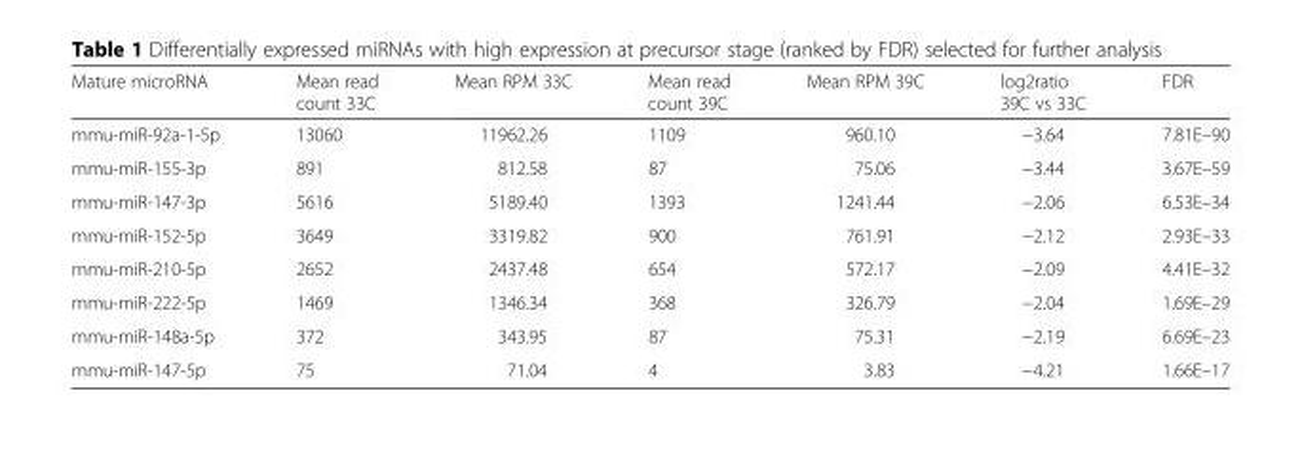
<table><thead><tr><td>Mature microRNA</td><td>Mean read count 33C</td><td>Mean RPM 33C</td><td>Mean read count 39C</td><td>Mean RPM 39C</td><td>log2ratio 39C vs 33C</td><td>FDR</td></tr></thead><tbody><tr><td>mmu-miR-92a-1-5p</td><td>13060</td><td>11962.26</td><td>1109</td><td>960.10</td><td>−3.64</td><td>7.81E–90</td></tr><tr><td>mmu-miR-155-3p</td><td>891</td><td>812.58</td><td>87</td><td>75.06</td><td>−3.44</td><td>3.67E–59</td></tr><tr><td>mmu-miR-147-3p</td><td>5616</td><td>5189.40</td><td>1393</td><td>1241.44</td><td>−2.06</td><td>6.53E–34</td></tr><tr><td>mmu-miR-152-5p</td><td>3649</td><td>3319.82</td><td>900</td><td>761.91</td><td>−2.12</td><td>2.93E–33</td></tr><tr><td>mmu-miR-210-5p</td><td>2652</td><td>2437.48</td><td>654</td><td>572.17</td><td>−2.09</td><td>4.41E–32</td></tr><tr><td>mmu-miR-222-5p</td><td>1469</td><td>1346.34</td><td>368</td><td>326.79</td><td>−2.04</td><td>1.69E–29</td></tr><tr><td>mmu-miR-148a-5p</td><td>372</td><td>343.95</td><td>87</td><td>75.31</td><td>−2.19</td><td>6.69E–23</td></tr><tr><td>mmu-miR-147-5p</td><td>75</td><td>71.04</td><td>4</td><td>3.83</td><td>−4.21</td><td>1.66E–17</td></tr></tbody></table>